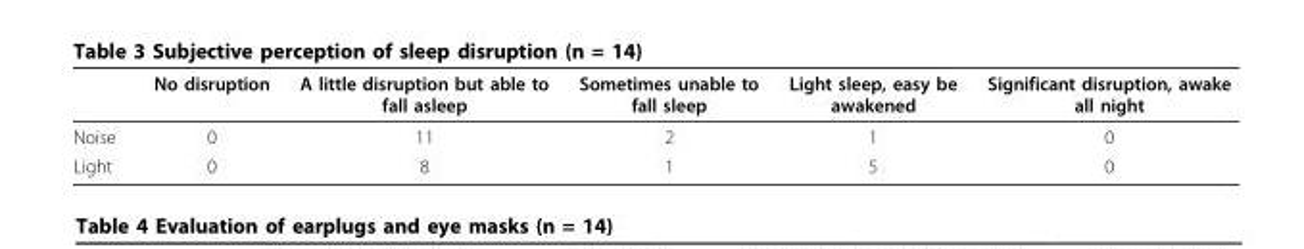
<table><thead><tr><td></td><td>No disruption</td><td>A little disruption but able to fall asleep</td><td>Sometimes unable to fall sleep</td><td>Light sleep, easy be awakened</td><td>Significant disruption, awake all night</td></tr></thead><tbody><tr><td>Noise</td><td>0</td><td>11</td><td>2</td><td>1</td><td>0</td></tr><tr><td>Light</td><td>0</td><td>8</td><td>1</td><td>5</td><td>0</td></tr></tbody></table>